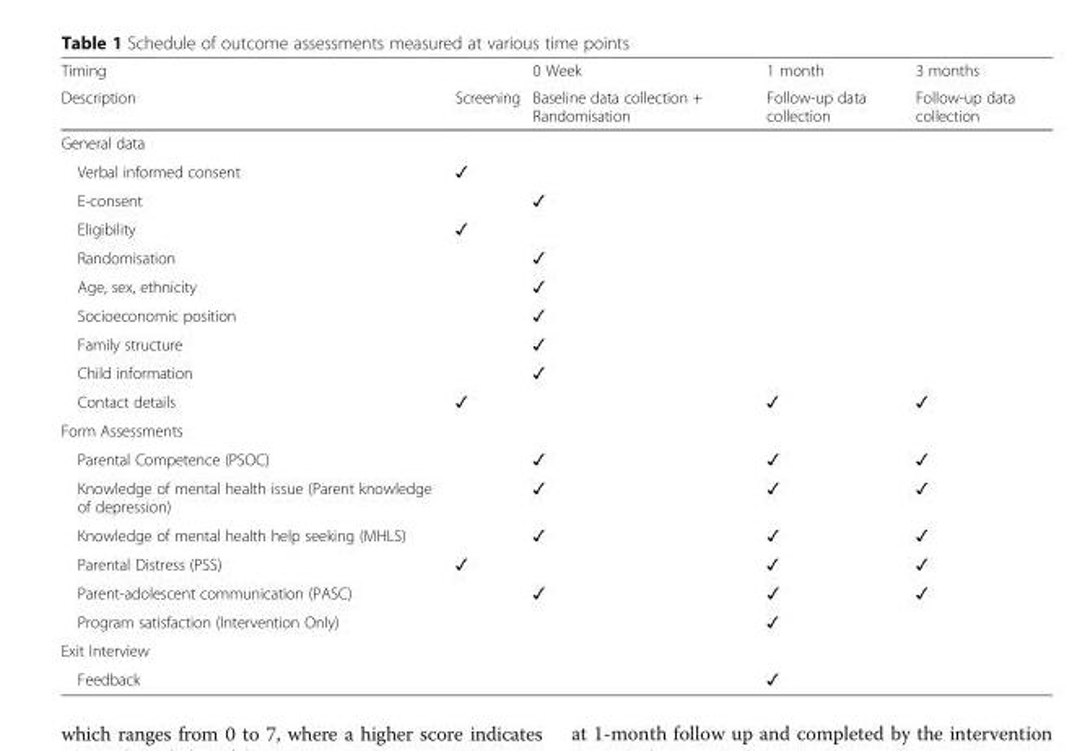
<table><thead><tr><td rowspan="2">Timing Description</td><td rowspan="2">Screening</td><td rowspan="2">0 Week Baseline data collection + Randomisation</td><td rowspan="2">1 month Follow-up data collection</td><td rowspan="2">3 months Follow-up data collection</td></tr><tr></tr></thead><tbody><tr><td colspan="5">General data</td></tr><tr><td>Verbal informed consent</td><td>✓</td><td></td><td></td><td></td></tr><tr><td>E-consent</td><td></td><td>✓</td><td></td><td></td></tr><tr><td>Eligibility</td><td>✓</td><td></td><td></td><td></td></tr><tr><td>Randomisation</td><td></td><td>✓</td><td></td><td></td></tr><tr><td>Age, sex, ethnicity</td><td></td><td>✓</td><td></td><td></td></tr><tr><td>Socioeconomic position</td><td></td><td>✓</td><td></td><td></td></tr><tr><td>Family structure</td><td></td><td>✓</td><td></td><td></td></tr><tr><td>Child information</td><td></td><td>✓</td><td></td><td></td></tr><tr><td>Contact details</td><td>✓</td><td></td><td>✓</td><td>✓</td></tr><tr><td colspan="5">Form Assessments</td></tr><tr><td>Parental Competence (PSOC)</td><td></td><td>✓</td><td>✓</td><td>✓</td></tr><tr><td>Knowledge of mental health issue (Parent knowledge of depression)</td><td></td><td>✓</td><td>✓</td><td>✓</td></tr><tr><td>Knowledge of mental health help seeking (MHLS)</td><td></td><td>✓</td><td>✓</td><td>✓</td></tr><tr><td>Parental Distress (PSS)</td><td>✓</td><td></td><td>✓</td><td>✓</td></tr><tr><td>Parent-adolescent communication (PASC)</td><td></td><td>✓</td><td>✓</td><td>✓</td></tr><tr><td>Program satisfaction (Intervention Only)</td><td></td><td></td><td>✓</td><td></td></tr><tr><td colspan="5">Exit Interview</td></tr><tr><td>Feedback</td><td></td><td></td><td>✓</td><td></td></tr></tbody></table>